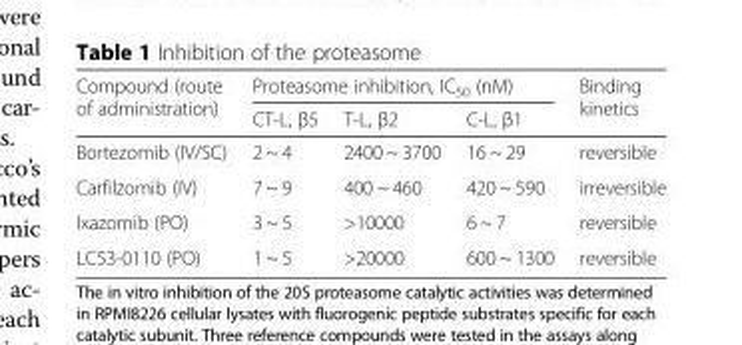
<table><thead><tr><td rowspan="2">Compound (route of administration)</td><td colspan="3">Proteasome inhibition, IC<sub>50</sub> (nM)</td><td rowspan="2">Binding kinetics</td></tr><tr><td>CT-L, β5</td><td>T-L, β2</td><td>C-L, β1</td></tr></thead><tbody><tr><td>Bortezomib (IV/SC)</td><td>2 ~ 4</td><td>2400 ~ 3700</td><td>16 ~ 29</td><td>reversible</td></tr><tr><td>Carfilzomib (IV)</td><td>7 ~ 9</td><td>400 ~ 460</td><td>420 ~ 590</td><td>irreversible</td></tr><tr><td>Ixazomib (PO)</td><td>3 ~ 5</td><td>&gt;10000</td><td>6 ~ 7</td><td>reversible</td></tr><tr><td>LC53-0110 (PO)</td><td>1 ~ 5</td><td>&gt;20000</td><td>600 ~ 1300</td><td>reversible</td></tr></tbody></table>